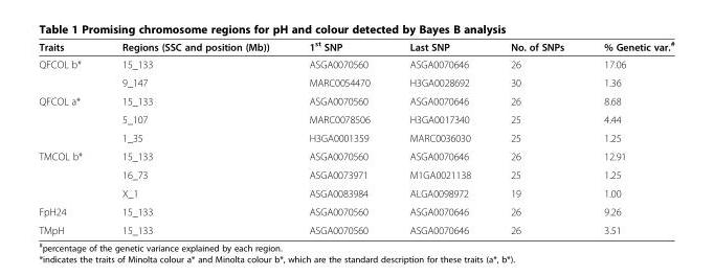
<table><thead><tr><td>Traits</td><td>Regions (SSC and position (Mb))</td><td>1<sup>st</sup> SNP</td><td>Last SNP</td><td>No. of SNPs</td><td>% Genetic var.<sup>#</sup></td></tr></thead><tbody><tr><td rowspan="2">QFCOL b*</td><td>15_133</td><td>ASGA0070560</td><td>ASGA0070646</td><td>26</td><td>17.06</td></tr><tr><td>9_147</td><td>MARC0054470</td><td>H3GA0028692</td><td>30</td><td>1.36</td></tr><tr><td rowspan="3">QFCOL a*</td><td>15_133</td><td>ASGA0070560</td><td>ASGA0070646</td><td>26</td><td>8.68</td></tr><tr><td>5_107</td><td>MARC0078506</td><td>H3GA0017340</td><td>25</td><td>4.44</td></tr><tr><td>1_35</td><td>H3GA0001359</td><td>MARC0036030</td><td>25</td><td>1.25</td></tr><tr><td rowspan="3">TMCOL b*</td><td>15_133</td><td>ASGA0070560</td><td>ASGA0070646</td><td>26</td><td>12.91</td></tr><tr><td>16_73</td><td>ASGA0073971</td><td>M1GA0021138</td><td>25</td><td>1.25</td></tr><tr><td>X_1</td><td>ASGA0083984</td><td>ALGA0098972</td><td>19</td><td>1.00</td></tr><tr><td>FpH24</td><td>15_133</td><td>ASGA0070560</td><td>ASGA0070646</td><td>26</td><td>9.26</td></tr><tr><td>TMpH</td><td>15_133</td><td>ASGA0070560</td><td>ASGA0070646</td><td>26</td><td>3.51</td></tr></tbody></table>